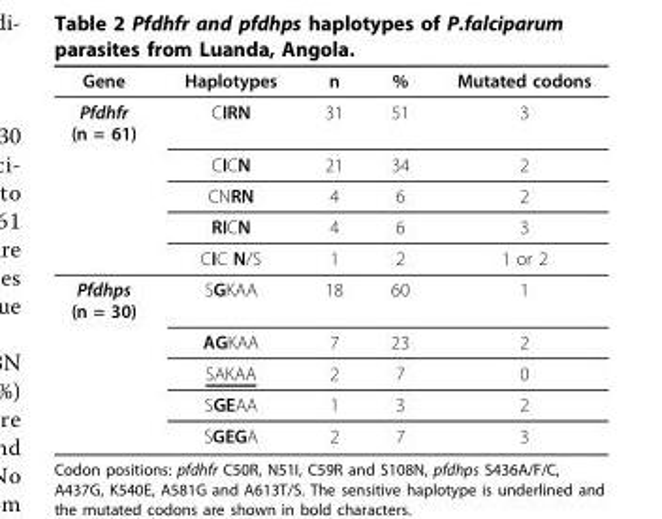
<table><thead><tr><td>Gene</td><td>Haplotypes</td><td>n</td><td>%</td><td>Mutated codons</td></tr></thead><tbody><tr><td rowspan="5">Pfdhfr (n = 61)</td><td>CIRN</td><td>31</td><td>51</td><td>3</td></tr><tr><td>CICN</td><td>21</td><td>34</td><td>2</td></tr><tr><td>CNRN</td><td>4</td><td>6</td><td>2</td></tr><tr><td>RICN</td><td>4</td><td>6</td><td>3</td></tr><tr><td>CIC N/S</td><td>1</td><td>2</td><td>1 or 2</td></tr><tr><td rowspan="5">Pfdhps (n = 30)</td><td>SGKAA</td><td>18</td><td>60</td><td>1</td></tr><tr><td>AGKAA</td><td>7</td><td>23</td><td>2</td></tr><tr><td>SAKAA</td><td>2</td><td>7</td><td>0</td></tr><tr><td>SGEAA</td><td>1</td><td>3</td><td>2</td></tr><tr><td>SGEGA</td><td>2</td><td>7</td><td>3</td></tr></tbody></table>